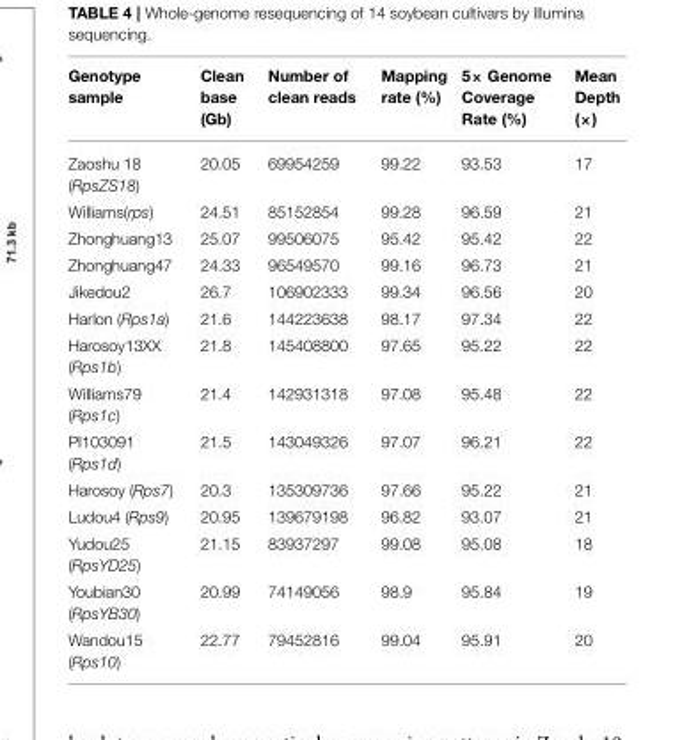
<table><thead><tr><td>Genotype sample</td><td>Clean base (Gb)</td><td>Number of clean reads</td><td>Mapping rate (%)</td><td>5× Genome Coverage Rate (%)</td><td>Mean Depth (×)</td></tr></thead><tbody><tr><td>Zaoshu 18 (RpsZS18)</td><td>20.05</td><td>69954259</td><td>99.22</td><td>93.53</td><td>17</td></tr><tr><td>Williams(rps)</td><td>24.51</td><td>85152854</td><td>99.28</td><td>96.59</td><td>21</td></tr><tr><td>Zhonghuang13</td><td>25.07</td><td>99506075</td><td>95.42</td><td>95.42</td><td>22</td></tr><tr><td>Zhonghuang47</td><td>24.33</td><td>96549570</td><td>99.16</td><td>96.73</td><td>21</td></tr><tr><td>Jikedou2</td><td>26.7</td><td>106902333</td><td>99.34</td><td>96.56</td><td>20</td></tr><tr><td>Harlon (Rps1a)</td><td>21.6</td><td>144223638</td><td>98.17</td><td>97.34</td><td>22</td></tr><tr><td>Harosoy13XX (Rps1b)</td><td>21.8</td><td>145408800</td><td>97.65</td><td>95.22</td><td>22</td></tr><tr><td>Williams79 (Rps1c)</td><td>21.4</td><td>142931318</td><td>97.08</td><td>95.48</td><td>22</td></tr><tr><td>PI103091 (Rps1d)</td><td>21.5</td><td>143049326</td><td>97.07</td><td>96.21</td><td>22</td></tr><tr><td>Harosoy (Rps7)</td><td>20.3</td><td>135309736</td><td>97.66</td><td>95.22</td><td>21</td></tr><tr><td>Ludou4 (Rps9)</td><td>20.95</td><td>139679198</td><td>96.82</td><td>93.07</td><td>21</td></tr><tr><td>Yudou25 (RpsYD25)</td><td>21.15</td><td>83937297</td><td>99.08</td><td>95.08</td><td>18</td></tr><tr><td>Youbian30 (RpsYB30)</td><td>20.99</td><td>74149056</td><td>98.9</td><td>95.84</td><td>19</td></tr><tr><td>Wandou15 (Rps10)</td><td>22.77</td><td>79452816</td><td>99.04</td><td>95.91</td><td>20</td></tr></tbody></table>